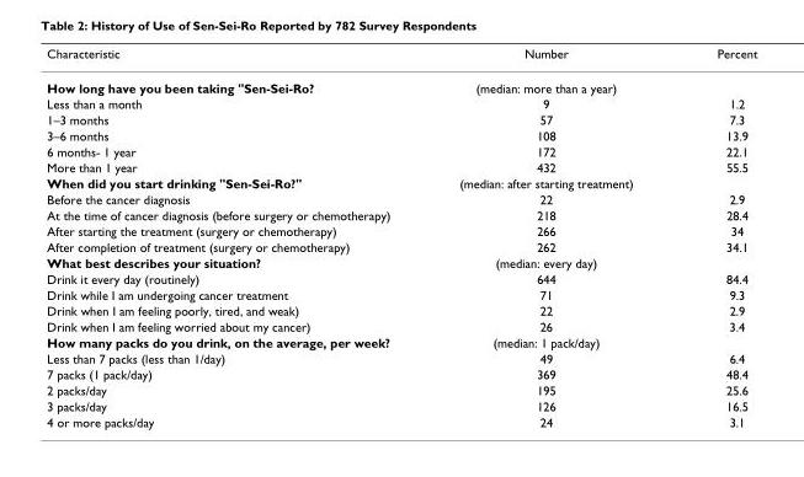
<table><thead><tr><td>Characteristic</td><td>Number</td><td>Percent</td></tr></thead><tbody><tr><td>How long have you been taking &quot;Sen-Sei-Ro?</td><td>(median: more than a year)</td><td></td></tr><tr><td>Less than a month</td><td>9</td><td>1.2</td></tr><tr><td>1–3 months</td><td>57</td><td>7.3</td></tr><tr><td>3–6 months</td><td>108</td><td>13.9</td></tr><tr><td>6 months- 1 year</td><td>172</td><td>22.1</td></tr><tr><td>More than 1 year</td><td>432</td><td>55.5</td></tr><tr><td>When did you start drinking &quot;Sen-Sei-Ro?&quot;</td><td>(median: after starting treatment)</td><td></td></tr><tr><td>Before the cancer diagnosis</td><td>22</td><td>2.9</td></tr><tr><td>At the time of cancer diagnosis (before surgery or chemotherapy)</td><td>218</td><td>28.4</td></tr><tr><td>After starting the treatment (surgery or chemotherapy)</td><td>266</td><td>34</td></tr><tr><td>After completion of treatment (surgery or chemotherapy)</td><td>262</td><td>34.1</td></tr><tr><td>What best describes your situation?</td><td>(median: every day)</td><td></td></tr><tr><td>Drink it every day (routinely)</td><td>644</td><td>84.4</td></tr><tr><td>Drink while I am undergoing cancer treatment</td><td>71</td><td>9.3</td></tr><tr><td>Drink when I am feeling poorly, tired, and weak)</td><td>22</td><td>2.9</td></tr><tr><td>Drink when I am feeling worried about my cancer)</td><td>26</td><td>3.4</td></tr><tr><td>How many packs do you drink, on the average, per week?</td><td>(median: 1 pack/day)</td><td></td></tr><tr><td>Less than 7 packs (less than 1/day)</td><td>49</td><td>6.4</td></tr><tr><td>7 packs (1 pack/day)</td><td>369</td><td>48.4</td></tr><tr><td>2 packs/day</td><td>195</td><td>25.6</td></tr><tr><td>3 packs/day</td><td>126</td><td>16.5</td></tr><tr><td>4 or more packs/day</td><td>24</td><td>3.1</td></tr></tbody></table>